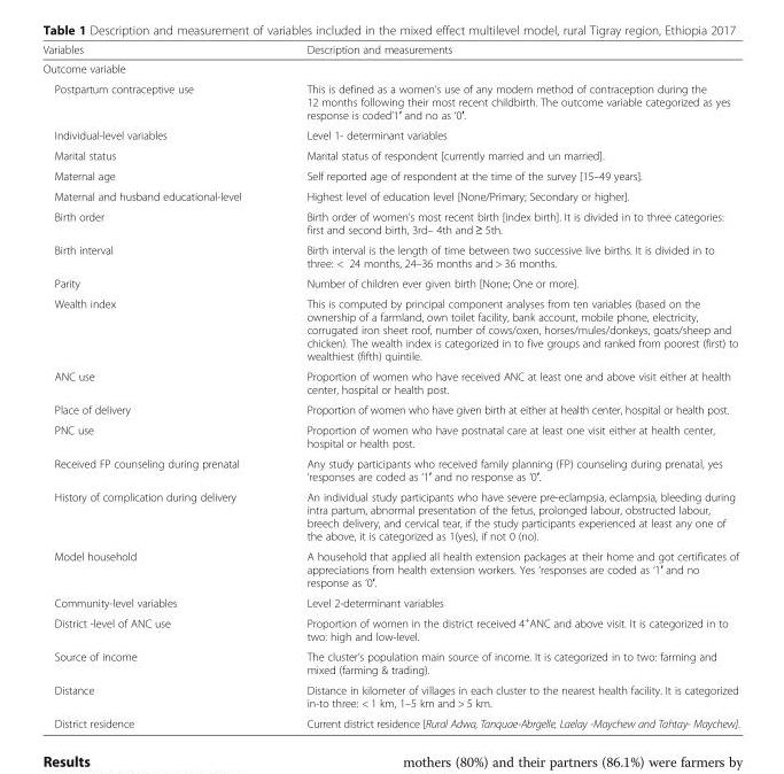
<table><thead><tr><td>Variables</td><td>Description and measurements</td></tr></thead><tbody><tr><td colspan="2">Outcome variable</td></tr><tr><td>Postpartum contraceptive use</td><td>This is defined as a women’s use of any modern method of contraception during the 12 months following their most recent childbirth. The outcome variable categorized as yes response is coded’1′ and no as ‘0′.</td></tr><tr><td>Individual-level variables</td><td>Level 1- determinant variables</td></tr><tr><td>Marital status</td><td>Marital status of respondent [currently married and un married].</td></tr><tr><td>Maternal age</td><td>Self reported age of respondent at the time of the survey [15–49 years].</td></tr><tr><td>Maternal and husband educational-level</td><td>Highest level of education level [None/Primary; Secondary or higher].</td></tr><tr><td>Birth order</td><td>Birth order of women’s most recent birth [index birth]. It is divided in to three categories: first and second birth, 3rd– 4th and ≥ 5th.</td></tr><tr><td>Birth interval</td><td>Birth interval is the length of time between two successive live births. It is divided in to three: &lt; 24 months, 24–36 months and &gt; 36 months.</td></tr><tr><td>Parity</td><td>Number of children ever given birth [None; One or more].</td></tr><tr><td>Wealth index</td><td>This is computed by principal component analyses from ten variables (based on the ownership of a farmland, own toilet facility, bank account, mobile phone, electricity, corrugated iron sheet roof, number of cows/oxen, horses/mules/donkeys, goats/sheep and chicken). The wealth index is categorized in to five groups and ranked from poorest (first) to wealthiest (fifth) quintile.</td></tr><tr><td>ANC use</td><td>Proportion of women who have received ANC at least one and above visit either at health center, hospital or health post.</td></tr><tr><td>Place of delivery</td><td>Proportion of women who have given birth at either at health center, hospital or health post.</td></tr><tr><td>PNC use</td><td>Proportion of women who have postnatal care at least one visit either at health center, hospital or health post.</td></tr><tr><td>Received FP counseling during prenatal</td><td>Any study participants who received family planning (FP) counseling during prenatal, yes ‘responses are coded as ‘1′ and no response as ‘0′.</td></tr><tr><td>History of complication during delivery</td><td>An individual study participants who have severe pre-eclampsia, eclampsia, bleeding during intra partum, abnormal presentation of the fetus, prolonged labour, obstructed labour, breech delivery, and cervical tear, if the study participants experienced at least any one of the above, it is categorized as 1(yes), if not 0 (no).</td></tr><tr><td>Model household</td><td>A household that applied all health extension packages at their home and got certificates of appreciations from health extension workers. Yes ‘responses are coded as ‘1′ and no response as ‘0′.</td></tr><tr><td>Community-level variables</td><td>Level 2-determinant variables</td></tr><tr><td>District -level of ANC use</td><td>Proportion of women in the district received 4<sup>+</sup>ANC and above visit. It is categorized in to two: high and low-level.</td></tr><tr><td>Source of income</td><td>The cluster’s population main source of income. It is categorized in to two: farming and mixed (farming &amp; trading).</td></tr><tr><td>Distance</td><td>Distance in kilometer of villages in each cluster to the nearest health facility. It is categorized in-to three: &lt; 1 km, 1–5 km and &gt; 5 km.</td></tr><tr><td>District residence</td><td>Current district residence [Rural Adwa, Tanquae-Abrgelle, Laelay -Maychew and Tahtay- Maychew].</td></tr></tbody></table>